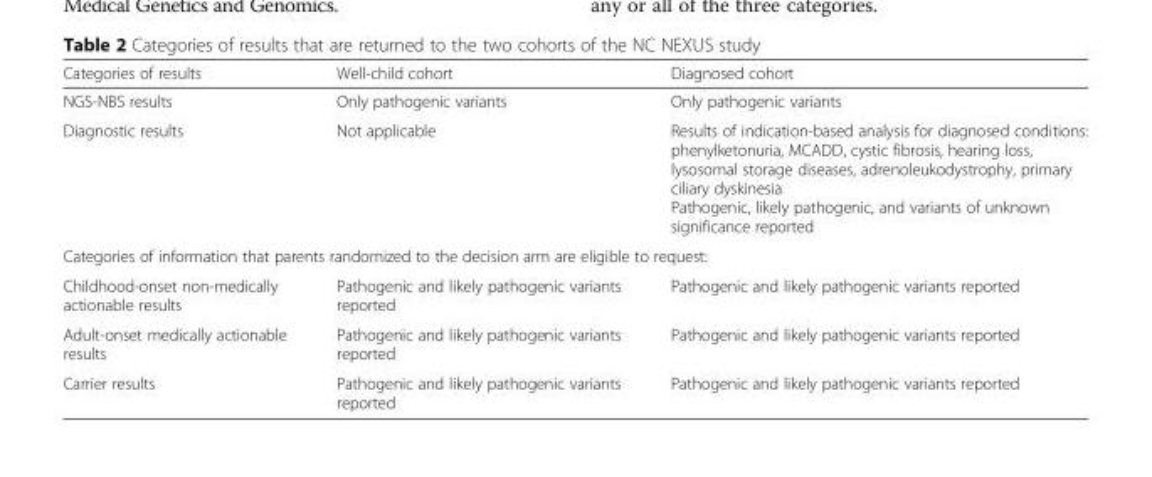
<table><thead><tr><td>Categories of results</td><td>Well-child cohort</td><td>Diagnosed cohort</td></tr></thead><tbody><tr><td>NGS-NBS results</td><td>Only pathogenic variants</td><td>Only pathogenic variants</td></tr><tr><td>Diagnostic results</td><td>Not applicable</td><td>Results of indication-based analysis for diagnosed conditions: phenylketonuria, MCADD, cystic fibrosis, hearing loss, lysosomal storage diseases, adrenoleukodystrophy, primary ciliary dyskinesia Pathogenic, likely pathogenic, and variants of unknown significance reported</td></tr><tr><td colspan="3">Categories of information that parents randomized to the decision arm are eligible to request:</td></tr><tr><td>Childhood-onset non-medically actionable results</td><td>Pathogenic and likely pathogenic variants reported</td><td>Pathogenic and likely pathogenic variants reported</td></tr><tr><td>Adult-onset medically actionable results</td><td>Pathogenic and likely pathogenic variants reported</td><td>Pathogenic and likely pathogenic variants reported</td></tr><tr><td>Carrier results</td><td>Pathogenic and likely pathogenic variants reported</td><td>Pathogenic and likely pathogenic variants reported</td></tr></tbody></table>